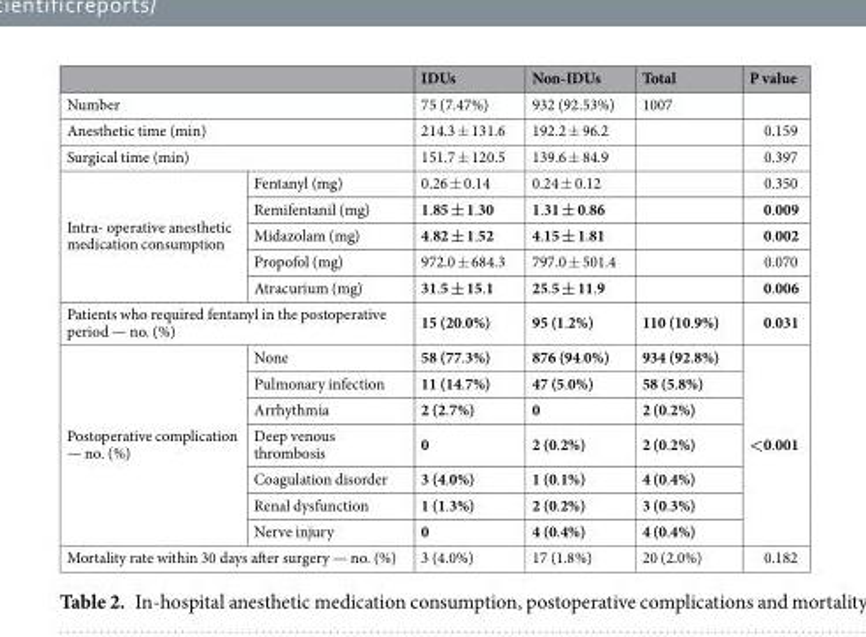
<table><thead><tr><td></td><td></td><td>IDUs</td><td>Non-IDUs</td><td>Total</td><td>P value</td></tr></thead><tbody><tr><td colspan="2">Number</td><td>75 (7.47%)</td><td>932 (92.53%)</td><td>1007</td><td></td></tr><tr><td colspan="2">Anesthetic time (min)</td><td>214.3 ± 131.6</td><td>192.2 ± 96.2</td><td></td><td>0.159</td></tr><tr><td colspan="2">Surgical time (min)</td><td>151.7 ± 120.5</td><td>139.6 ± 84.9</td><td></td><td>0.397</td></tr><tr><td rowspan="5">Intra- operative anesthetic medication consumption</td><td>Fentanyl (mg)</td><td>0.26 ± 0.14</td><td>0.24 ± 0.12</td><td></td><td>0.350</td></tr><tr><td>Remifentanil (mg)</td><td>1.85 ± 1.30</td><td>1.31 ± 0.86</td><td></td><td>0.009</td></tr><tr><td>Midazolam (mg)</td><td>4.82 ± 1.52</td><td>4.15 ± 1.81</td><td></td><td>0.002</td></tr><tr><td>Propofol (mg)</td><td>972.0 ± 684.3</td><td>797.0 ± 501.4</td><td></td><td>0.070</td></tr><tr><td>Atracurium (mg)</td><td>31.5 ± 15.1</td><td>25.5 ± 11.9</td><td></td><td>0.006</td></tr><tr><td colspan="2">Patients who required fentanyl in the postoperative period — no. (%)</td><td>15 (20.0%)</td><td>95 (1.2%)</td><td>110 (10.9%)</td><td>0.031</td></tr><tr><td rowspan="7">Postoperative complication — no. (%)</td><td>None</td><td>58 (77.3%)</td><td>876 (94.0%)</td><td>934 (92.8%)</td><td rowspan="7">&lt;0.001</td></tr><tr><td>Pulmonary infection</td><td>11 (14.7%)</td><td>47 (5.0%)</td><td>58 (5.8%)</td></tr><tr><td>Arrhythmia</td><td>2 (2.7%)</td><td>0</td><td>2 (0.2%)</td></tr><tr><td>Deep venous thrombosis</td><td>0</td><td>2 (0.2%)</td><td>2 (0.2%)</td></tr><tr><td>Coagulation disorder</td><td>3 (4.0%)</td><td>1 (0.1%)</td><td>4 (0.4%)</td></tr><tr><td>Renal dysfunction</td><td>1 (1.3%)</td><td>2 (0.2%)</td><td>3 (0.3%)</td></tr><tr><td>Nerve injury</td><td>0</td><td>4 (0.4%)</td><td>4 (0.4%)</td></tr><tr><td colspan="2">Mortality rate within 30 days after surgery — no. (%)</td><td>3 (4.0%)</td><td>17 (1.8%)</td><td>20 (2.0%)</td><td>0.182</td></tr></tbody></table>